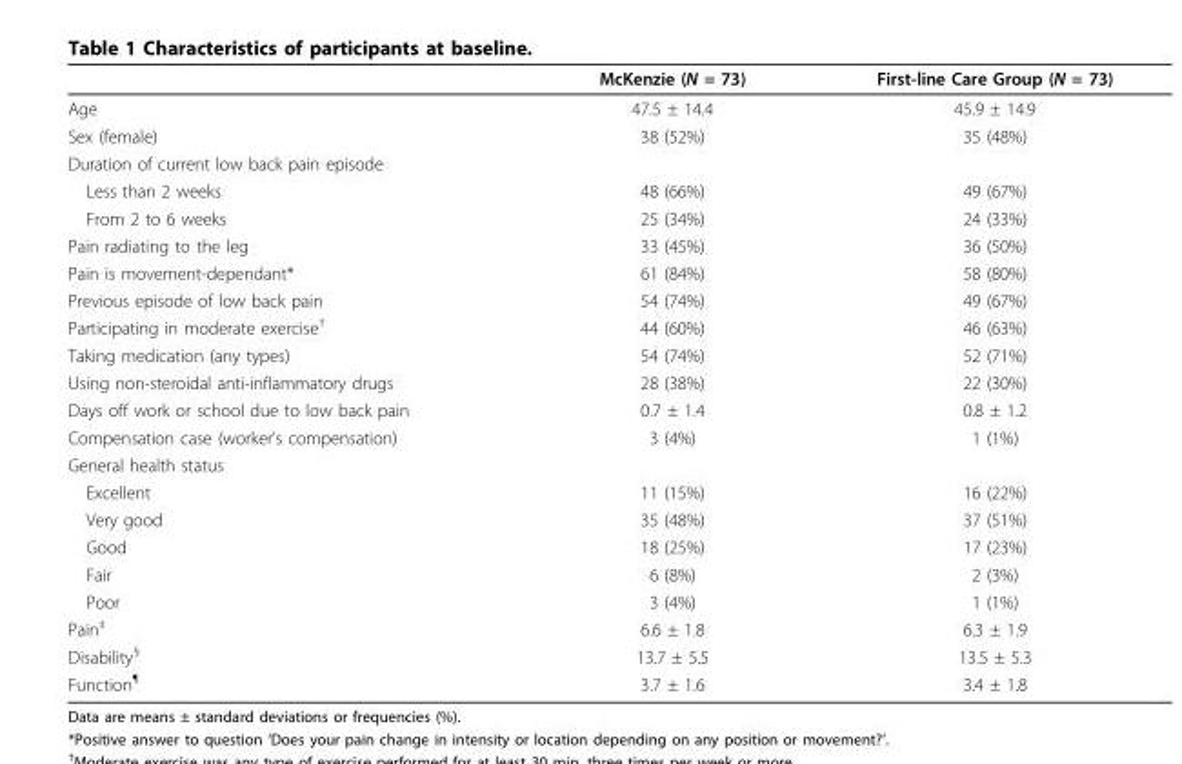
<table><thead><tr><td></td><td>McKenzie (N = 73)</td><td>First-line Care Group (N = 73)</td></tr></thead><tbody><tr><td>Age</td><td>47.5 ± 14.4</td><td>45.9 ± 14.9</td></tr><tr><td>Sex (female)</td><td>38 (52%)</td><td>35 (48%)</td></tr><tr><td colspan="3">Duration of current low back pain episode</td></tr><tr><td>Less than 2 weeks</td><td>48 (66%)</td><td>49 (67%)</td></tr><tr><td>From 2 to 6 weeks</td><td>25 (34%)</td><td>24 (33%)</td></tr><tr><td>Pain radiating to the leg</td><td>33 (45%)</td><td>36 (50%)</td></tr><tr><td>Pain is movement-dependant*</td><td>61 (84%)</td><td>58 (80%)</td></tr><tr><td>Previous episode of low back pain</td><td>54 (74%)</td><td>49 (67%)</td></tr><tr><td>Participating in moderate exercise<sup>†</sup></td><td>44 (60%)</td><td>46 (63%)</td></tr><tr><td>Taking medication (any types)</td><td>54 (74%)</td><td>52 (71%)</td></tr><tr><td>Using non-steroidal anti-inflammatory drugs</td><td>28 (38%)</td><td>22 (30%)</td></tr><tr><td>Days off work or school due to low back pain</td><td>0.7 ± 1.4</td><td>0.8 ± 1.2</td></tr><tr><td>Compensation case (worker’s compensation)</td><td>3 (4%)</td><td>1 (1%)</td></tr><tr><td colspan="3">General health status</td></tr><tr><td>Excellent</td><td>11 (15%)</td><td>16 (22%)</td></tr><tr><td>Very good</td><td>35 (48%)</td><td>37 (51%)</td></tr><tr><td>Good</td><td>18 (25%)</td><td>17 (23%)</td></tr><tr><td>Fair</td><td>6 (8%)</td><td>2 (3%)</td></tr><tr><td>Poor</td><td>3 (4%)</td><td>1 (1%)</td></tr><tr><td>Pain<sup>‡</sup></td><td>6.6 ± 1.8</td><td>6.3 ± 1.9</td></tr><tr><td>Disability<sup>§</sup></td><td>13.7 ± 5.5</td><td>13.5 ± 5.3</td></tr><tr><td>Function<sup>¶</sup></td><td>3.7 ± 1.6</td><td>3.4 ± 1.8</td></tr></tbody></table>